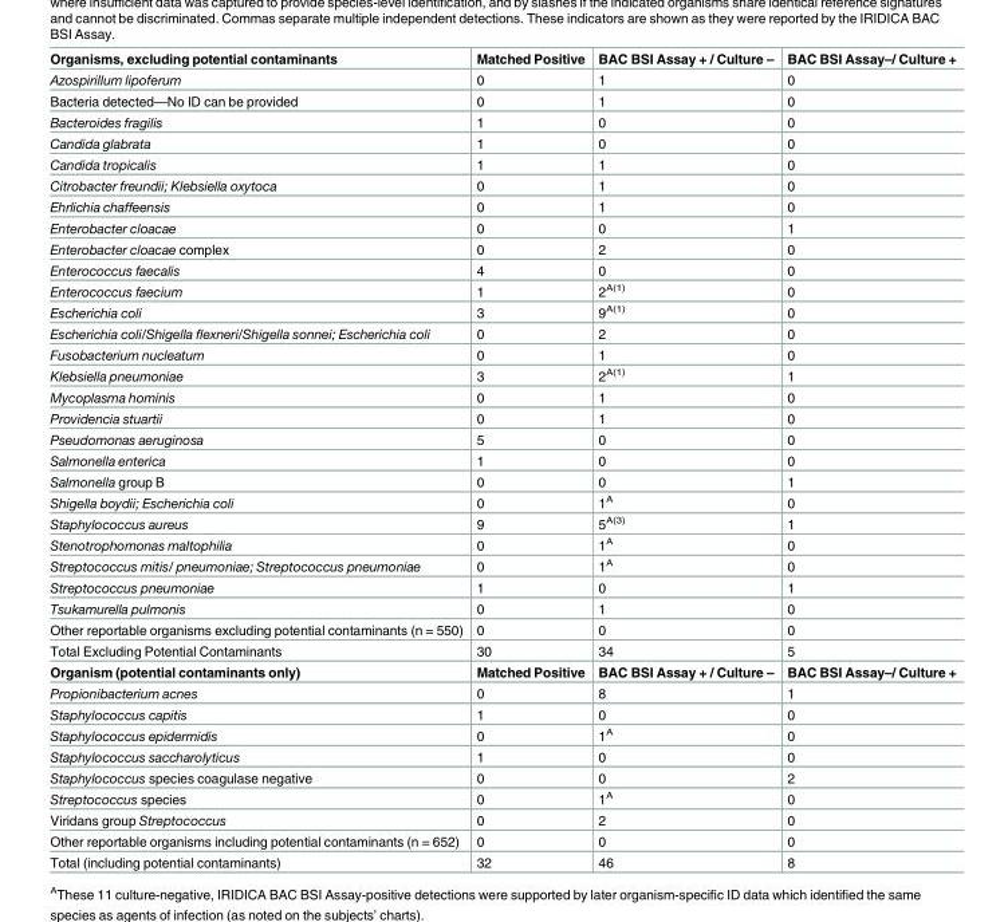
<table><tbody><tr><td>Organisms, excluding potential contaminants</td><td>Matched Positive</td><td>BAC BSI Assay + / Culture –</td><td>BAC BSI Assay–/ Culture +</td></tr><tr><td>Azospirillum lipoferum</td><td>0</td><td>1</td><td>0</td></tr><tr><td>Bacteria detected—No ID can be provided</td><td>0</td><td>1</td><td>0</td></tr><tr><td>Bacteroides fragilis</td><td>1</td><td>0</td><td>0</td></tr><tr><td>Candida glabrata</td><td>1</td><td>0</td><td>0</td></tr><tr><td>Candida tropicalis</td><td>1</td><td>1</td><td>0</td></tr><tr><td>Citrobacter freundii; Klebsiella oxytoca</td><td>0</td><td>1</td><td>0</td></tr><tr><td>Ehrlichia chaffeensis</td><td>0</td><td>1</td><td>0</td></tr><tr><td>Enterobacter cloacae</td><td>0</td><td>0</td><td>1</td></tr><tr><td>Enterobacter cloacae complex</td><td>0</td><td>2</td><td>0</td></tr><tr><td>Enterococcus faecalis</td><td>4</td><td>0</td><td>0</td></tr><tr><td>Enterococcus faecium</td><td>1</td><td>2<sup>A(1)</sup></td><td>0</td></tr><tr><td>Escherichia coli</td><td>3</td><td>9<sup>A(1)</sup></td><td>0</td></tr><tr><td>Escherichia coli/Shigella flexneri/Shigella sonnei; Escherichia coli</td><td>0</td><td>2</td><td>0</td></tr><tr><td>Fusobacterium nucleatum</td><td>0</td><td>1</td><td>0</td></tr><tr><td>Klebsiella pneumoniae</td><td>3</td><td>2<sup>A(1)</sup></td><td>1</td></tr><tr><td>Mycoplasma hominis</td><td>0</td><td>1</td><td>0</td></tr><tr><td>Providencia stuartii</td><td>0</td><td>1</td><td>0</td></tr><tr><td>Pseudomonas aeruginosa</td><td>5</td><td>0</td><td>0</td></tr><tr><td>Salmonella enterica</td><td>1</td><td>0</td><td>0</td></tr><tr><td>Salmonella group B</td><td>0</td><td>0</td><td>1</td></tr><tr><td>Shigella boydii; Escherichia coli</td><td>0</td><td>1<sup>A</sup></td><td>0</td></tr><tr><td>Staphylococcus aureus</td><td>9</td><td>5<sup>A(3)</sup></td><td>1</td></tr><tr><td>Stenotrophomonas maltophilia</td><td>0</td><td>1<sup>A</sup></td><td>0</td></tr><tr><td>Streptococcus mitis/ pneumoniae; Streptococcus pneumoniae</td><td>0</td><td>1<sup>A</sup></td><td>0</td></tr><tr><td>Streptococcus pneumoniae</td><td>1</td><td>0</td><td>1</td></tr><tr><td>Tsukamurella pulmonis</td><td>0</td><td>1</td><td>0</td></tr><tr><td>Other reportable organisms excluding potential contaminants (n = 550)</td><td>0</td><td>0</td><td>0</td></tr><tr><td>Total Excluding Potential Contaminants</td><td>30</td><td>34</td><td>5</td></tr><tr><td>Organism (potential contaminants only)</td><td>Matched Positive</td><td>BAC BSI Assay + / Culture –</td><td>BAC BSI Assay–/ Culture +</td></tr><tr><td>Propionibacterium acnes</td><td>0</td><td>8</td><td>1</td></tr><tr><td>Staphylococcus capitis</td><td>1</td><td>0</td><td>0</td></tr><tr><td>Staphylococcus epidermidis</td><td>0</td><td>1<sup>A</sup></td><td>0</td></tr><tr><td>Staphylococcus saccharolyticus</td><td>1</td><td>0</td><td>0</td></tr><tr><td>Staphylococcus species coagulase negative</td><td>0</td><td>0</td><td>2</td></tr><tr><td>Streptococcus species</td><td>0</td><td>1<sup>A</sup></td><td>0</td></tr><tr><td>Viridans group Streptococcus</td><td>0</td><td>2</td><td>0</td></tr><tr><td>Other reportable organisms including potential contaminants (n = 652)</td><td>0</td><td>0</td><td>0</td></tr><tr><td>Total (including potential contaminants)</td><td>32</td><td>46</td><td>8</td></tr></tbody></table>